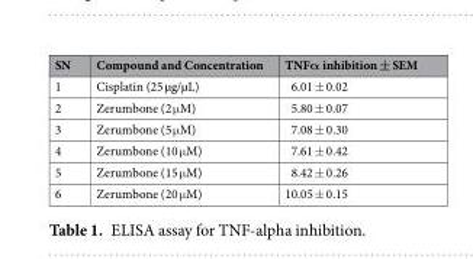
<table><thead><tr><td>SN</td><td>Compound and Concentration</td><td>TNFα inhibition ± SEM</td></tr></thead><tbody><tr><td>1</td><td>Cisplatin (25 µg/µL)</td><td>6.01 ± 0.02</td></tr><tr><td>2</td><td>Zerumbone (2 μM)</td><td>5.80 ± 0.07</td></tr><tr><td>3</td><td>Zerumbone (5 μM)</td><td>7.08 ± 0.30</td></tr><tr><td>4</td><td>Zerumbone (10 μM)</td><td>7.61 ± 0.42</td></tr><tr><td>5</td><td>Zerumbone (15 μM)</td><td>8.42 ± 0.26</td></tr><tr><td>6</td><td>Zerumbone (20 μM)</td><td>10.05 ± 0.15</td></tr></tbody></table>